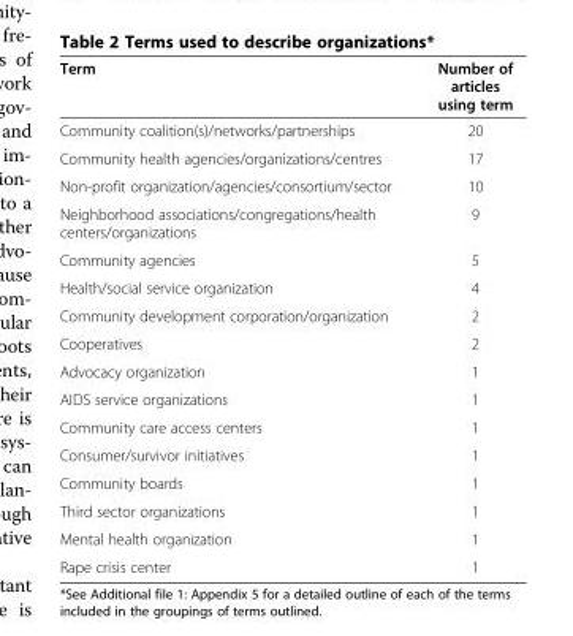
<table><thead><tr><td>Term</td><td>Number of articles using term</td></tr></thead><tbody><tr><td>Community coalition(s)/networks/partnerships</td><td>20</td></tr><tr><td>Community health agencies/organizations/centres</td><td>17</td></tr><tr><td>Non-profit organization/agencies/consortium/sector</td><td>10</td></tr><tr><td>Neighborhood associations/congregations/health centers/organizations</td><td>9</td></tr><tr><td>Community agencies</td><td>5</td></tr><tr><td>Health/social service organization</td><td>4</td></tr><tr><td>Community development corporation/organization</td><td>2</td></tr><tr><td>Cooperatives</td><td>2</td></tr><tr><td>Advocacy organization</td><td>1</td></tr><tr><td>AIDS service organizations</td><td>1</td></tr><tr><td>Community care access centers</td><td>1</td></tr><tr><td>Consumer/survivor initiatives</td><td>1</td></tr><tr><td>Community boards</td><td>1</td></tr><tr><td>Third sector organizations</td><td>1</td></tr><tr><td>Mental health organization</td><td>1</td></tr><tr><td>Rape crisis center</td><td>1</td></tr></tbody></table>